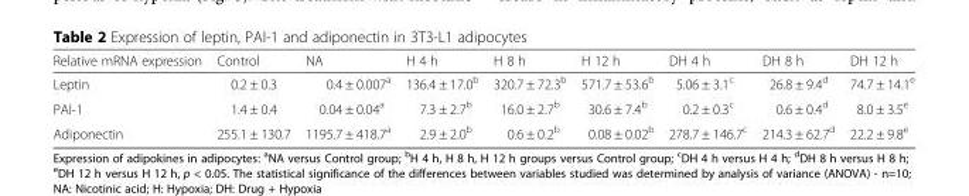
<table><thead><tr><td>Relative mRNA expression</td><td>Control</td><td>NA</td><td>H 4 h</td><td>H 8 h</td><td>H 12 h</td><td>DH 4 h</td><td>DH 8 h</td><td>DH 12 h</td></tr></thead><tbody><tr><td>Leptin</td><td>0.2 ± 0.3</td><td>0.4 ± 0.007<sup>a</sup></td><td>136.4 ± 17.0<sup>b</sup></td><td>320.7 ± 72.3<sup>b</sup></td><td>571.7 ± 53.6<sup>b</sup></td><td>5.06 ± 3.1<sup>c</sup></td><td>26.8 ± 9.4<sup>d</sup></td><td>74.7 ± 14.1<sup>e</sup></td></tr><tr><td>PAI-1</td><td>1.4 ± 0.4</td><td>0.04 ± 0.04<sup>a</sup></td><td>7.3 ± 2.7<sup>b</sup></td><td>16.0 ± 2.7<sup>b</sup></td><td>30.6 ± 7.4<sup>b</sup></td><td>0.2 ± 0.3<sup>c</sup></td><td>0.6 ± 0.4<sup>d</sup></td><td>8.0 ± 3.5<sup>e</sup></td></tr><tr><td>Adiponectin</td><td>255.1 ± 130.7</td><td>1195.7 ± 418.7<sup>a</sup></td><td>2.9 ± 2.0<sup>b</sup></td><td>0.6 ± 0.2<sup>b</sup></td><td>0.08 ± 0.02<sup>b</sup></td><td>278.7 ± 146.7<sup>c</sup></td><td>214.3 ± 62.7<sup>d</sup></td><td>22.2 ± 9.8<sup>e</sup></td></tr></tbody></table>